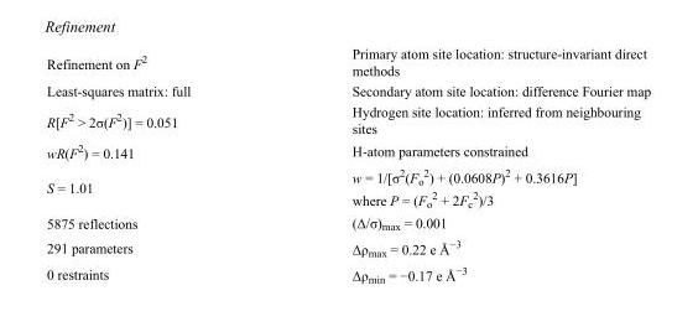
<table><tbody><tr><td>Refinement on F<sup>2</sup></td><td>Primary atom site location: structure-invariant direct methods</td></tr><tr><td>Least-squares matrix: full</td><td>Secondary atom site location: difference Fourier map</td></tr><tr><td>R[F<sup>2</sup> &gt; 2σ(F<sup>2</sup>)] = 0.051</td><td>Hydrogen site location: inferred from neighbouring sites</td></tr><tr><td>wR(F<sup>2</sup>) = 0.141</td><td>H-atom parameters constrained</td></tr><tr><td>S = 1.01</td><td>w = 1/[σ<sup>2</sup>(F<sub>o</sub> <sup>2</sup>) + (0.0608P)<sup>2</sup> + 0.3616P] where P = (F<sub>o</sub> <sup>2</sup> + 2F<sub>c</sub> <sup>2</sup>)/3</td></tr><tr><td>5875 reflections</td><td>(Δ/σ)<sub>max</sub> = 0.001</td></tr><tr><td>291 parameters</td><td>Δρ<sub>max</sub> = 0.22 e Å<sup>−3</sup></td></tr><tr><td>0 restraints</td><td>Δρ<sub>min</sub> = −0.17 e Å<sup>−3</sup></td></tr></tbody></table>